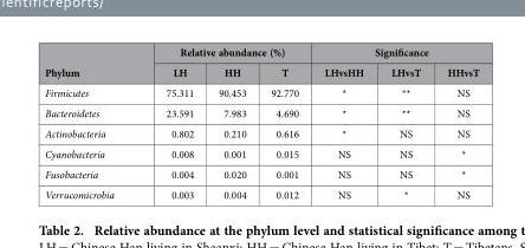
<table><thead><tr><td rowspan="2">Phylum</td><td colspan="3">Relative abundance (%)</td><td colspan="3">Significance</td></tr><tr><td>LH</td><td>HH</td><td>T</td><td>LHvsHH</td><td>LHvsT</td><td>HHvsT</td></tr></thead><tbody><tr><td>Firmicutes</td><td>75.311</td><td>90.453</td><td>92.770</td><td>*</td><td>**</td><td>NS</td></tr><tr><td>Bacteroidetes</td><td>23.591</td><td>7.983</td><td>4.690</td><td>*</td><td>**</td><td>NS</td></tr><tr><td>Actinobacteria</td><td>0.802</td><td>0.210</td><td>0.616</td><td>*</td><td>NS</td><td>NS</td></tr><tr><td>Cyanobacteria</td><td>0.008</td><td>0.001</td><td>0.015</td><td>NS</td><td>NS</td><td>*</td></tr><tr><td>Fusobacteria</td><td>0.004</td><td>0.020</td><td>0.001</td><td>NS</td><td>NS</td><td>*</td></tr><tr><td>Verrucomicrobia</td><td>0.003</td><td>0.004</td><td>0.012</td><td>NS</td><td>*</td><td>NS</td></tr></tbody></table>